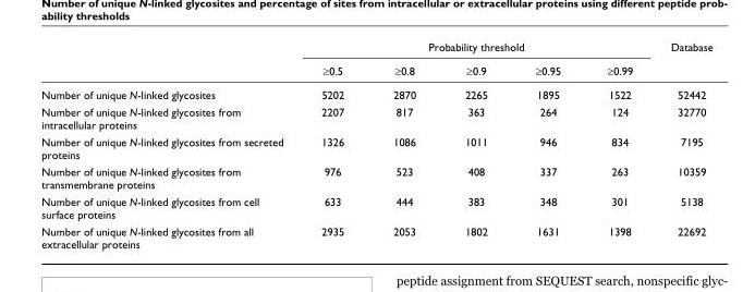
<table><thead><tr><td rowspan="2"></td><td colspan="5">Probability threshold</td><td rowspan="2">Database</td></tr><tr><td>≥0.5</td><td>≥0.8</td><td>≥0.9</td><td>≥0.95</td><td>≥0.99</td></tr></thead><tbody><tr><td>Number of unique N-linked glycosites</td><td>5202</td><td>2870</td><td>2265</td><td>1895</td><td>1522</td><td>52442</td></tr><tr><td>Number of unique N-linked glycosites from intracellular proteins</td><td>2207</td><td>817</td><td>363</td><td>264</td><td>124</td><td>32770</td></tr><tr><td>Number of unique N-linked glycosites from secreted proteins</td><td>1326</td><td>1086</td><td>1011</td><td>946</td><td>834</td><td>7195</td></tr><tr><td>Number of unique N-linked glycosites from transmembrane proteins</td><td>976</td><td>523</td><td>408</td><td>337</td><td>263</td><td>10359</td></tr><tr><td>Number of unique N-linked glycosites from cell surface proteins</td><td>633</td><td>444</td><td>383</td><td>348</td><td>301</td><td>5138</td></tr><tr><td>Number of unique N-linked glycosites from all extracellular proteins</td><td>2935</td><td>2053</td><td>1802</td><td>1631</td><td>1398</td><td>22692</td></tr></tbody></table>